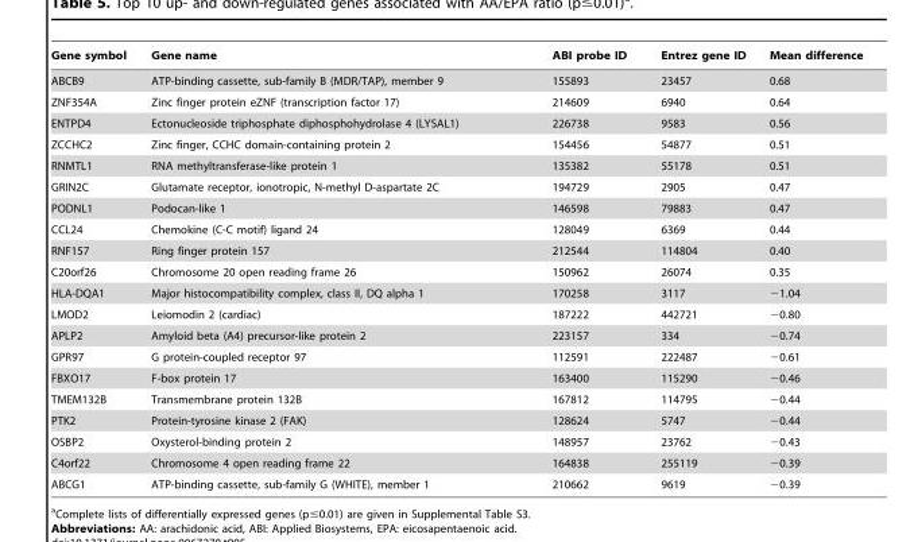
<table><thead><tr><td>Gene symbol</td><td>Gene name</td><td>ABI probe ID</td><td>Entrez gene ID</td><td>Mean difference</td></tr></thead><tbody><tr><td>ABCB9</td><td>ATP-binding cassette, sub-family B (MDR/TAP), member 9</td><td>155893</td><td>23457</td><td>0.68</td></tr><tr><td>ZNF354A</td><td>Zinc finger protein eZNF (transcription factor 17)</td><td>214609</td><td>6940</td><td>0.64</td></tr><tr><td>ENTPD4</td><td>Ectonucleoside triphosphate diphosphohydrolase 4 (LYSAL1)</td><td>226738</td><td>9583</td><td>0.56</td></tr><tr><td>ZCCHC2</td><td>Zinc finger, CCHC domain-containing protein 2</td><td>154456</td><td>54877</td><td>0.51</td></tr><tr><td>RNMTL1</td><td>RNA methyltransferase-like protein 1</td><td>135382</td><td>55178</td><td>0.51</td></tr><tr><td>GRIN2C</td><td>Glutamate receptor, ionotropic, N-methyl D-aspartate 2C</td><td>194729</td><td>2905</td><td>0.47</td></tr><tr><td>PODNL1</td><td>Podocan-like 1</td><td>146598</td><td>79883</td><td>0.47</td></tr><tr><td>CCL24</td><td>Chemokine (C-C motif) ligand 24</td><td>128049</td><td>6369</td><td>0.44</td></tr><tr><td>RNF157</td><td>Ring finger protein 157</td><td>212544</td><td>114804</td><td>0.40</td></tr><tr><td>C20orf26</td><td>Chromosome 20 open reading frame 26</td><td>150962</td><td>26074</td><td>0.35</td></tr><tr><td>HLA-DQA1</td><td>Major histocompatibility complex, class II, DQ alpha 1</td><td>170258</td><td>3117</td><td>−1.04</td></tr><tr><td>LMOD2</td><td>Leiomodin 2 (cardiac)</td><td>187222</td><td>442721</td><td>−0.80</td></tr><tr><td>APLP2</td><td>Amyloid beta (A4) precursor-like protein 2</td><td>223157</td><td>334</td><td>−0.74</td></tr><tr><td>GPR97</td><td>G protein-coupled receptor 97</td><td>112591</td><td>222487</td><td>−0.61</td></tr><tr><td>FBXO17</td><td>F-box protein 17</td><td>163400</td><td>115290</td><td>−0.46</td></tr><tr><td>TMEM132B</td><td>Transmembrane protein 132B</td><td>167812</td><td>114795</td><td>−0.44</td></tr><tr><td>PTK2</td><td>Protein-tyrosine kinase 2 (FAK)</td><td>128624</td><td>5747</td><td>−0.44</td></tr><tr><td>OSBP2</td><td>Oxysterol-binding protein 2</td><td>148957</td><td>23762</td><td>−0.43</td></tr><tr><td>C4orf22</td><td>Chromosome 4 open reading frame 22</td><td>164838</td><td>255119</td><td>−0.39</td></tr><tr><td>ABCG1</td><td>ATP-binding cassette, sub-family G (WHITE), member 1</td><td>210662</td><td>9619</td><td>−0.39</td></tr></tbody></table>